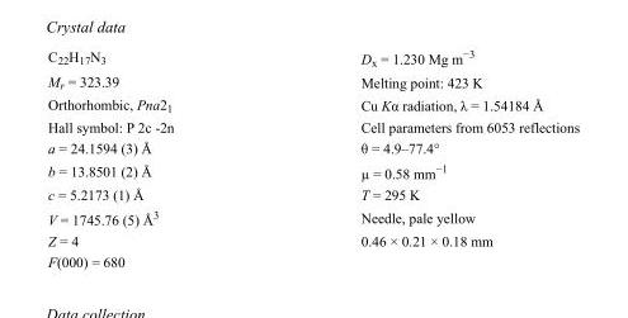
<table><tbody><tr><td>C<sub>22</sub>H<sub>17</sub>N<sub>3</sub></td><td>D<sub>x</sub> = 1.230 Mg m<sup>−3</sup></td></tr><tr><td>M<sub>r</sub> = 323.39</td><td>Melting point: 423 K</td></tr><tr><td>Orthorhombic, Pna2<sub>1</sub></td><td>Cu Kα radiation, λ = 1.54184 Å</td></tr><tr><td>Hall symbol: P 2c -2n</td><td>Cell parameters from 6053 reflections</td></tr><tr><td>a = 24.1594 (3) Å</td><td>θ = 4.9–77.4°</td></tr><tr><td>b = 13.8501 (2) Å</td><td>µ = 0.58 mm−1</td></tr><tr><td>c = 5.2173 (1) Å</td><td>T = 295 K</td></tr><tr><td>V = 1745.76 (5) Å<sup>3</sup></td><td>Needle, pale yellow</td></tr><tr><td>Z = 4</td><td>0.46 × 0.21 × 0.18 mm</td></tr><tr><td>F(000) = 680</td><td></td></tr></tbody></table>